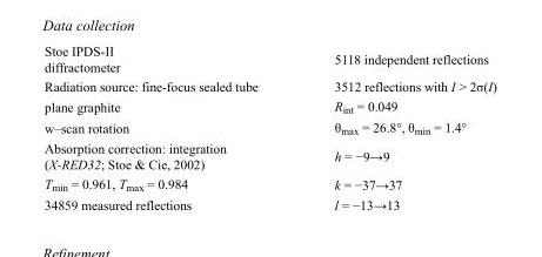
<table><tbody><tr><td>Stoe IPDS-II diffractometer</td><td>5118 independent reflections</td></tr><tr><td>Radiation source: fine-focus sealed tube</td><td>3512 reflections with I &gt; 2σ(I)</td></tr><tr><td>plane graphite</td><td>R<sub>int</sub> = 0.049</td></tr><tr><td>w–scan rotation</td><td>θ<sub>max</sub> = 26.8°, θ<sub>min</sub> = 1.4°</td></tr><tr><td>Absorption correction: integration (X-RED32; Stoe &amp; Cie, 2002)</td><td>h = −9→9</td></tr><tr><td>T<sub>min</sub> = 0.961, T<sub>max</sub> = 0.984</td><td>k = −37→37</td></tr><tr><td>34859 measured reflections</td><td>l = −13→13</td></tr></tbody></table>